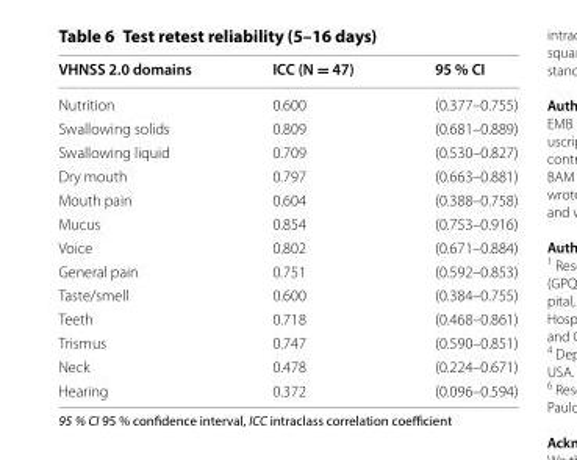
<table><thead><tr><td>VHNSS 2.0 domains</td><td>ICC (N = 47)</td><td>95 % CI</td></tr></thead><tbody><tr><td>Nutrition</td><td>0.600</td><td>(0.377–0.755)</td></tr><tr><td>Swallowing solids</td><td>0.809</td><td>(0.681–0.889)</td></tr><tr><td>Swallowing liquid</td><td>0.709</td><td>(0.530–0.827)</td></tr><tr><td>Dry mouth</td><td>0.797</td><td>(0.663–0.881)</td></tr><tr><td>Mouth pain</td><td>0.604</td><td>(0.388–0.758)</td></tr><tr><td>Mucus</td><td>0.854</td><td>(0.753–0.916)</td></tr><tr><td>Voice</td><td>0.802</td><td>(0.671–0.884)</td></tr><tr><td>General pain</td><td>0.751</td><td>(0.592–0.853)</td></tr><tr><td>Taste/smell</td><td>0.600</td><td>(0.384–0.755)</td></tr><tr><td>Teeth</td><td>0.718</td><td>(0.468–0.861)</td></tr><tr><td>Trismus</td><td>0.747</td><td>(0.590–0.851)</td></tr><tr><td>Neck</td><td>0.478</td><td>(0.224–0.671)</td></tr><tr><td>Hearing</td><td>0.372</td><td>(0.096–0.594)</td></tr></tbody></table>